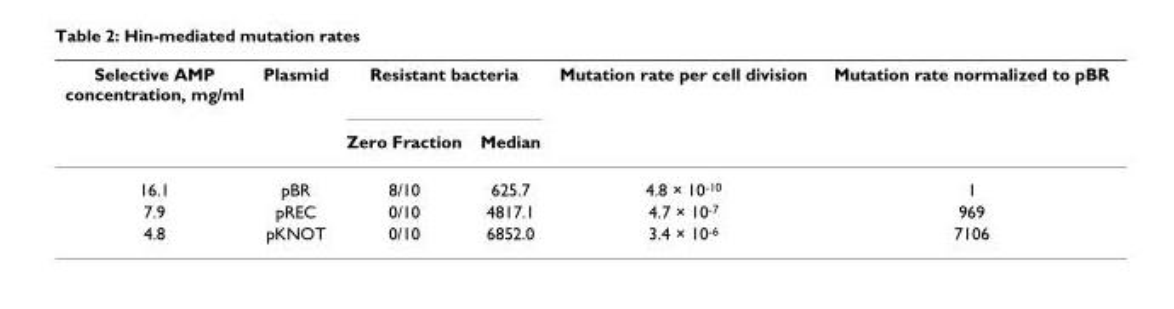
<table><thead><tr><td rowspan="2">Selective AMP concentration, mg/ml</td><td rowspan="2">Plasmid</td><td colspan="2">Resistant bacteria</td><td rowspan="2">Mutation rate per cell division</td><td rowspan="2">Mutation rate normalized to pBR</td></tr><tr><td>Zero Fraction</td><td>Median</td></tr></thead><tbody><tr><td>16.1</td><td>pBR</td><td>8/10</td><td>625.7</td><td>4.8 × 10<sup>-10</sup></td><td>1</td></tr><tr><td>7.9</td><td>pREC</td><td>0/10</td><td>4817.1</td><td>4.7 × 10<sup>-7</sup></td><td>969</td></tr><tr><td>4.8</td><td>pKNOT</td><td>0/10</td><td>6852.0</td><td>3.4 × 10<sup>-6</sup></td><td>7106</td></tr></tbody></table>